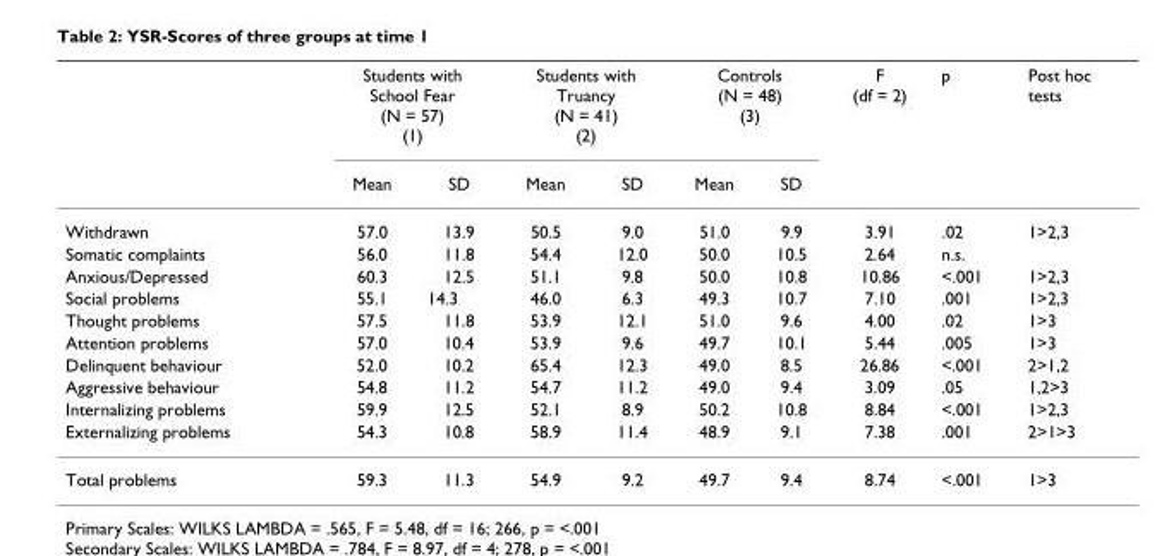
<table><thead><tr><td rowspan="2"></td><td colspan="2">Students with School Fear (N = 57) (1)</td><td colspan="2">Students with Truancy (N = 41) (2)</td><td colspan="2">Controls (N = 48) (3)</td><td rowspan="2">F (df = 2)</td><td rowspan="2">p</td><td rowspan="2">Post hoc tests</td></tr><tr><td>Mean</td><td>SD</td><td>Mean</td><td>SD</td><td>Mean</td><td>SD</td></tr></thead><tbody><tr><td>Withdrawn</td><td>57.0</td><td>13.9</td><td>50.5</td><td>9.0</td><td>51.0</td><td>9.9</td><td>3.91</td><td>.02</td><td>1&gt;2,3</td></tr><tr><td>Somatic complaints</td><td>56.0</td><td>11.8</td><td>54.4</td><td>12.0</td><td>50.0</td><td>10.5</td><td>2.64</td><td>n.s.</td><td></td></tr><tr><td>Anxious/Depressed</td><td>60.3</td><td>12.5</td><td>51.1</td><td>9.8</td><td>50.0</td><td>10.8</td><td>10.86</td><td>&lt;.001</td><td>1&gt;2,3</td></tr><tr><td>Social problems</td><td>55.1</td><td>14.3</td><td>46.0</td><td>6.3</td><td>49.3</td><td>10.7</td><td>7.10</td><td>.001</td><td>1&gt;2,3</td></tr><tr><td>Thought problems</td><td>57.5</td><td>11.8</td><td>53.9</td><td>12.1</td><td>51.0</td><td>9.6</td><td>4.00</td><td>.02</td><td>1&gt;3</td></tr><tr><td>Attention problems</td><td>57.0</td><td>10.4</td><td>53.9</td><td>9.6</td><td>49.7</td><td>10.1</td><td>5.44</td><td>.005</td><td>1&gt;3</td></tr><tr><td>Delinquent behaviour</td><td>52.0</td><td>10.2</td><td>65.4</td><td>12.3</td><td>49.0</td><td>8.5</td><td>26.86</td><td>&lt;.001</td><td>2&gt;1,2</td></tr><tr><td>Aggressive behaviour</td><td>54.8</td><td>11.2</td><td>54.7</td><td>11.2</td><td>49.0</td><td>9.4</td><td>3.09</td><td>.05</td><td>1,2&gt;3</td></tr><tr><td>Internalizing problems</td><td>59.9</td><td>12.5</td><td>52.1</td><td>8.9</td><td>50.2</td><td>10.8</td><td>8.84</td><td>&lt;.001</td><td>1&gt;2,3</td></tr><tr><td>Externalizing problems</td><td>54.3</td><td>10.8</td><td>58.9</td><td>11.4</td><td>48.9</td><td>9.1</td><td>7.38</td><td>.001</td><td>2&gt;1&gt;3</td></tr><tr><td>Total problems</td><td>59.3</td><td>11.3</td><td>54.9</td><td>9.2</td><td>49.7</td><td>9.4</td><td>8.74</td><td>&lt;.001</td><td>1&gt;3</td></tr></tbody></table>